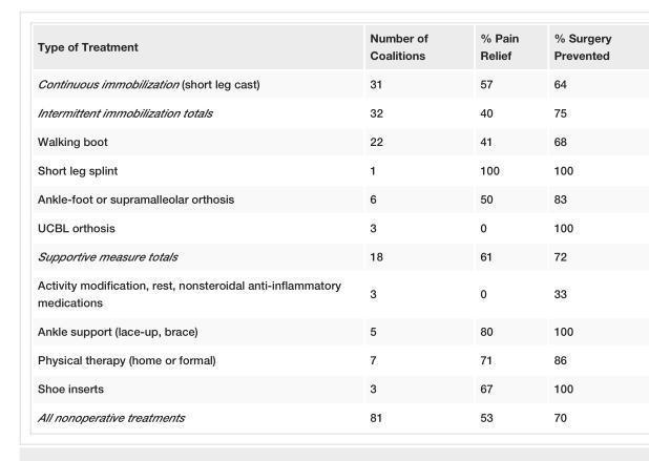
<table><tbody><tr><td>Type of Treatment</td><td>Number of Coalitions</td><td>% Pain Relief</td><td>% Surgery Prevented</td></tr><tr><td>Continuous immobilization (short leg cast)</td><td>31</td><td>57</td><td>64</td></tr><tr><td>Intermittent immobilization totals</td><td>32</td><td>40</td><td>75</td></tr><tr><td>Walking boot</td><td>22</td><td>41</td><td>68</td></tr><tr><td>Short leg splint</td><td>1</td><td>100</td><td>100</td></tr><tr><td>Ankle-foot or supramalleolar orthosis</td><td>6</td><td>50</td><td>83</td></tr><tr><td>UCBL orthosis</td><td>3</td><td>0</td><td>100</td></tr><tr><td>Supportive measure totals</td><td>18</td><td>61</td><td>72</td></tr><tr><td>Activity modification, rest, nonsteroidal anti-inflammatory medications</td><td>3</td><td>0</td><td>33</td></tr><tr><td>Ankle support (lace-up, brace)</td><td>5</td><td>80</td><td>100</td></tr><tr><td>Physical therapy (home or formal)</td><td>7</td><td>71</td><td>86</td></tr><tr><td>Shoe inserts</td><td>3</td><td>67</td><td>100</td></tr><tr><td>All nonoperative treatments</td><td>81</td><td>53</td><td>70</td></tr></tbody></table>